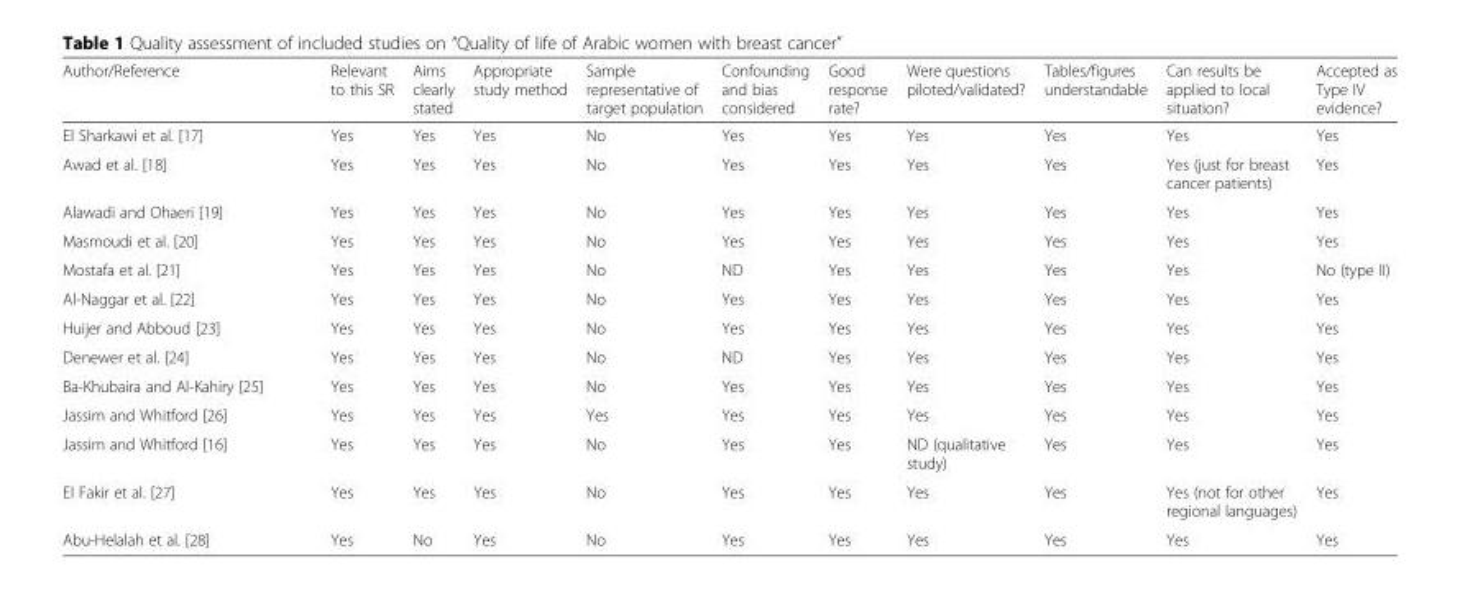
<table><thead><tr><td>Author/Reference</td><td>Relevant to this SR</td><td>Aims clearly stated</td><td>Appropriate study method</td><td>Sample representative of target population</td><td>Confounding and bias considered</td><td>Good response rate?</td><td>Were questions piloted/validated?</td><td>Tables/figures understandable</td><td>Can results be applied to local situation?</td><td>Accepted as Type IV evidence?</td></tr></thead><tbody><tr><td>El Sharkawi et al. [17]</td><td>Yes</td><td>Yes</td><td>Yes</td><td>No</td><td>Yes</td><td>Yes</td><td>Yes</td><td>Yes</td><td>Yes</td><td>Yes</td></tr><tr><td>Awad et al. [18]</td><td>Yes</td><td>Yes</td><td>Yes</td><td>No</td><td>Yes</td><td>Yes</td><td>Yes</td><td>Yes</td><td>Yes (just for breast cancer patients)</td><td>Yes</td></tr><tr><td>Alawadi and Ohaeri [19]</td><td>Yes</td><td>Yes</td><td>Yes</td><td>No</td><td>Yes</td><td>Yes</td><td>Yes</td><td>Yes</td><td>Yes</td><td>Yes</td></tr><tr><td>Masmoudi et al. [20]</td><td>Yes</td><td>Yes</td><td>Yes</td><td>No</td><td>Yes</td><td>Yes</td><td>Yes</td><td>Yes</td><td>Yes</td><td>Yes</td></tr><tr><td>Mostafa et al. [21]</td><td>Yes</td><td>Yes</td><td>Yes</td><td>No</td><td>ND</td><td>Yes</td><td>Yes</td><td>Yes</td><td>Yes</td><td>No (type II)</td></tr><tr><td>Al-Naggar et al. [22]</td><td>Yes</td><td>Yes</td><td>Yes</td><td>No</td><td>Yes</td><td>Yes</td><td>Yes</td><td>Yes</td><td>Yes</td><td>Yes</td></tr><tr><td>Huijer and Abboud [23]</td><td>Yes</td><td>Yes</td><td>Yes</td><td>No</td><td>Yes</td><td>Yes</td><td>Yes</td><td>Yes</td><td>Yes</td><td>Yes</td></tr><tr><td>Denewer et al. [24]</td><td>Yes</td><td>Yes</td><td>Yes</td><td>No</td><td>ND</td><td>Yes</td><td>Yes</td><td>Yes</td><td>Yes</td><td>Yes</td></tr><tr><td>Ba-Khubaira and Al-Kahiry [25]</td><td>Yes</td><td>Yes</td><td>Yes</td><td>No</td><td>Yes</td><td>Yes</td><td>Yes</td><td>Yes</td><td>Yes</td><td>Yes</td></tr><tr><td>Jassim and Whitford [26]</td><td>Yes</td><td>Yes</td><td>Yes</td><td>Yes</td><td>Yes</td><td>Yes</td><td>Yes</td><td>Yes</td><td>Yes</td><td>Yes</td></tr><tr><td>Jassim and Whitford [16]</td><td>Yes</td><td>Yes</td><td>Yes</td><td>No</td><td>Yes</td><td>Yes</td><td>ND (qualitative study)</td><td>Yes</td><td>Yes</td><td>Yes</td></tr><tr><td>El Fakir et al. [27]</td><td>Yes</td><td>Yes</td><td>Yes</td><td>No</td><td>Yes</td><td>Yes</td><td>Yes</td><td>Yes</td><td>Yes (not for other regional languages)</td><td>Yes</td></tr><tr><td>Abu-Helalah et al. [28]</td><td>Yes</td><td>No</td><td>Yes</td><td>No</td><td>Yes</td><td>Yes</td><td>Yes</td><td>Yes</td><td>Yes</td><td>Yes</td></tr></tbody></table>